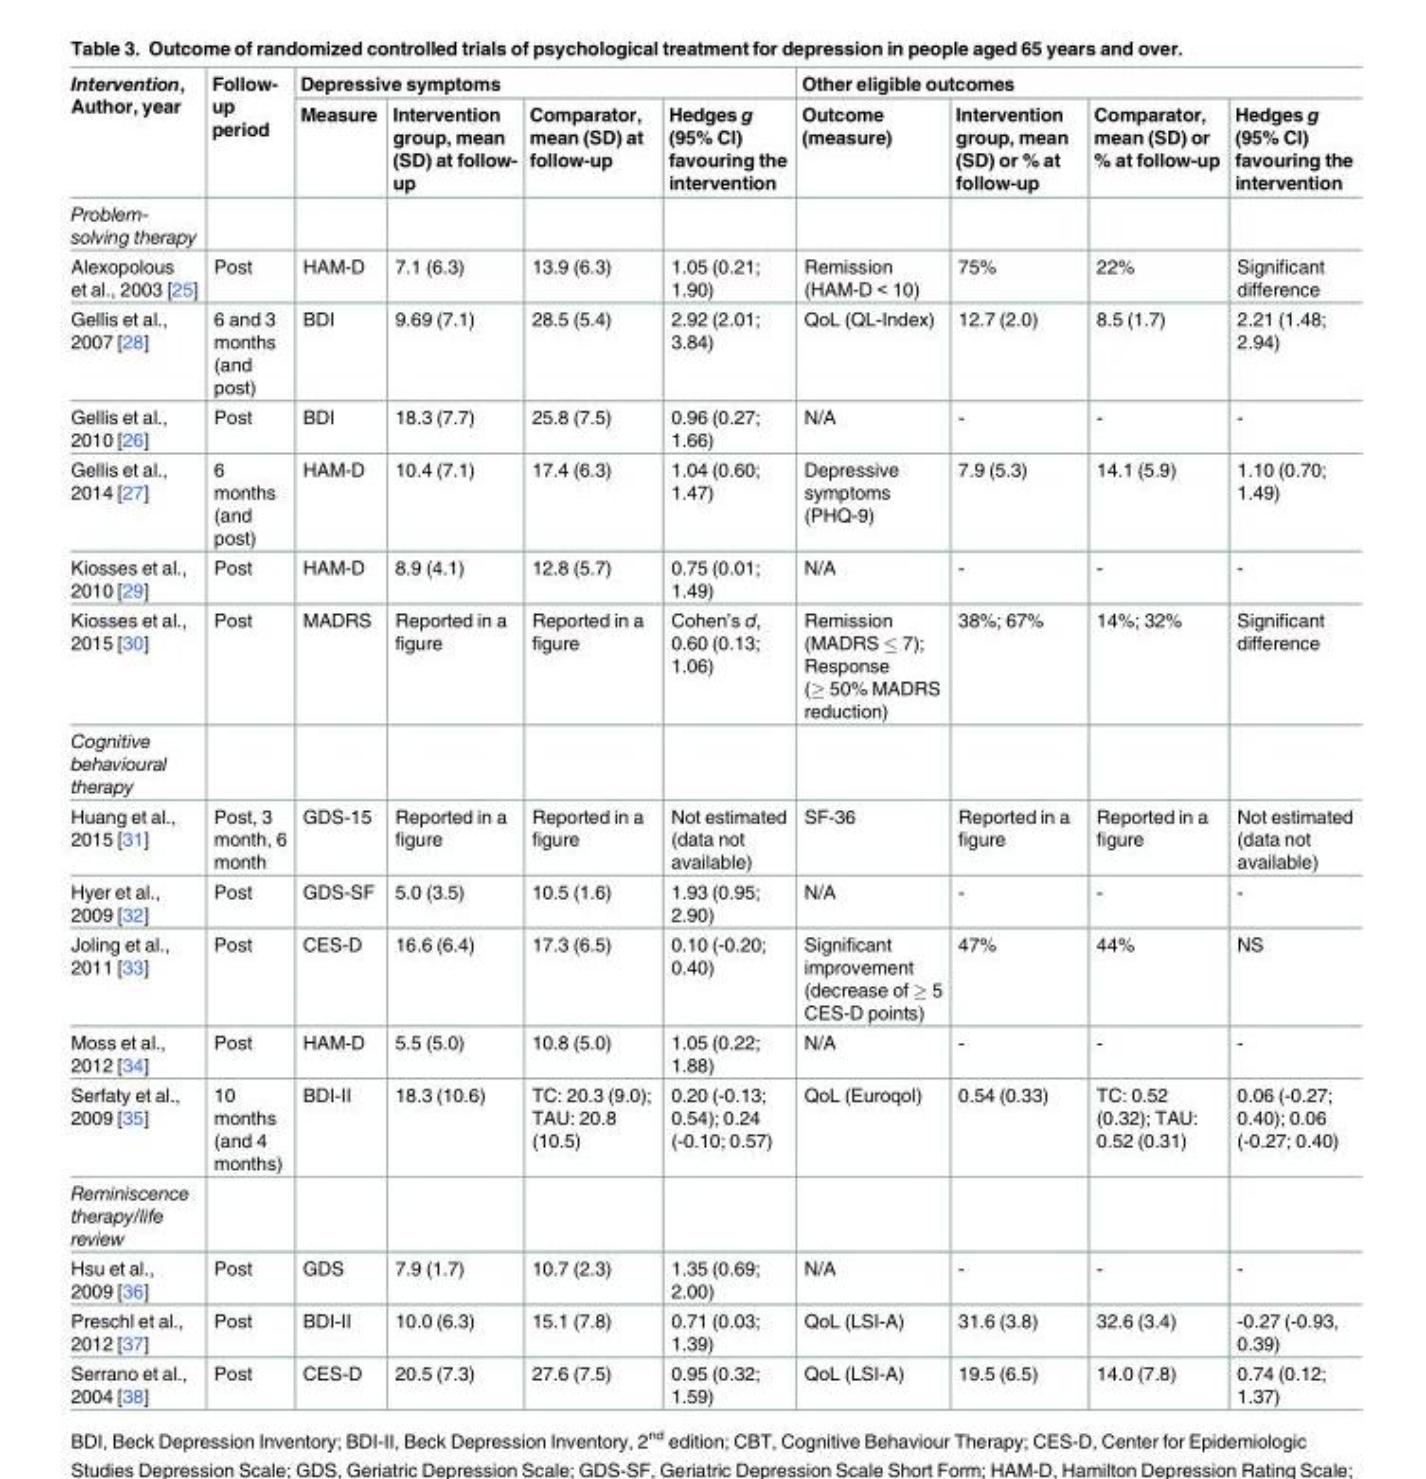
<table><thead><tr><td rowspan="2">Intervention, Author, year</td><td rowspan="2">Follow- up period</td><td colspan="4">Depressive symptoms</td><td colspan="4">Other eligible outcomes</td></tr><tr><td>Measure</td><td>Intervention group, mean (SD) at follow- up</td><td>Comparator, mean (SD) at follow-up</td><td>Hedges g (95% CI) favouring the intervention</td><td>Outcome (measure)</td><td>Intervention group, mean (SD) or % at follow-up</td><td>Comparator, mean (SD) or % at follow-up</td><td>Hedges g (95% CI) favouring the intervention</td></tr></thead><tbody><tr><td colspan="10">Problem- solving therapy</td></tr><tr><td>Alexopolous et al., 2003 [25]</td><td>Post</td><td>HAM-D</td><td>7.1 (6.3)</td><td>13.9 (6.3)</td><td>1.05 (0.21; 1.90)</td><td>Remission (HAM-D &lt; 10)</td><td>75%</td><td>22%</td><td>Significant difference</td></tr><tr><td>Gellis et al., 2007 [28]</td><td>6 and 3 months (and post)</td><td>BDI</td><td>9.69 (7.1)</td><td>28.5 (5.4)</td><td>2.92 (2.01; 3.84)</td><td>QoL (QL-Index)</td><td>12.7 (2.0)</td><td>8.5 (1.7)</td><td>2.21 (1.48; 2.94)</td></tr><tr><td>Gellis et al., 2010 [26]</td><td>Post</td><td>BDI</td><td>18.3 (7.7)</td><td>25.8 (7.5)</td><td>0.96 (0.27; 1.66)</td><td>N/A</td><td>-</td><td>-</td><td>-</td></tr><tr><td>Gellis et al., 2014 [27]</td><td>6 months (and post)</td><td>HAM-D</td><td>10.4 (7.1)</td><td>17.4 (6.3)</td><td>1.04 (0.60; 1.47)</td><td>Depressive symptoms (PHQ-9)</td><td>7.9 (5.3)</td><td>14.1 (5.9)</td><td>1.10 (0.70; 1.49)</td></tr><tr><td>Kiosses et al., 2010 [29]</td><td>Post</td><td>HAM-D</td><td>8.9 (4.1)</td><td>12.8 (5.7)</td><td>0.75 (0.01; 1.49)</td><td>N/A</td><td>-</td><td>-</td><td>-</td></tr><tr><td>Kiosses et al., 2015 [30]</td><td>Post</td><td>MADRS</td><td>Reported in a figure</td><td>Reported in a figure</td><td>Cohen’s d, 0.60 (0.13; 1.06)</td><td>Remission (MADRS ≤ 7); Response (≥ 50% MADRS reduction)</td><td>38%; 67%</td><td>14%; 32%</td><td>Significant difference</td></tr><tr><td colspan="10">Cognitive behavioural therapy</td></tr><tr><td>Huang et al., 2015 [31]</td><td>Post, 3 month, 6 month</td><td>GDS-15</td><td>Reported in a figure</td><td>Reported in a figure</td><td>Not estimated (data not available)</td><td>SF-36</td><td>Reported in a figure</td><td>Reported in a figure</td><td>Not estimated (data not available)</td></tr><tr><td>Hyer et al., 2009 [32]</td><td>Post</td><td>GDS-SF</td><td>5.0 (3.5)</td><td>10.5 (1.6)</td><td>1.93 (0.95; 2.90)</td><td>N/A</td><td>-</td><td>-</td><td>-</td></tr><tr><td>Joling et al., 2011 [33]</td><td>Post</td><td>CES-D</td><td>16.6 (6.4)</td><td>17.3 (6.5)</td><td>0.10 (-0.20; 0.40)</td><td>Significant improvement (decrease of ≥ 5 CES-D points)</td><td>47%</td><td>44%</td><td>NS</td></tr><tr><td>Moss et al., 2012 [34]</td><td>Post</td><td>HAM-D</td><td>5.5 (5.0)</td><td>10.8 (5.0)</td><td>1.05 (0.22; 1.88)</td><td>N/A</td><td>-</td><td>-</td><td>-</td></tr><tr><td>Serfaty et al., 2009 [35]</td><td>10 months (and 4 months)</td><td>BDI-II</td><td>18.3 (10.6)</td><td>TC: 20.3 (9.0); TAU: 20.8 (10.5)</td><td>0.20 (-0.13; 0.54); 0.24 (-0.10; 0.57)</td><td>QoL (Euroqol)</td><td>0.54 (0.33)</td><td>TC: 0.52 (0.32); TAU: 0.52 (0.31)</td><td>0.06 (-0.27; 0.40); 0.06 (-0.27; 0.40)</td></tr><tr><td colspan="10">Reminiscence therapy/life review</td></tr><tr><td>Hsu et al., 2009 [36]</td><td>Post</td><td>GDS</td><td>7.9 (1.7)</td><td>10.7 (2.3)</td><td>1.35 (0.69; 2.00)</td><td>N/A</td><td>-</td><td>-</td><td>-</td></tr><tr><td>Preschl et al., 2012 [37]</td><td>Post</td><td>BDI-II</td><td>10.0 (6.3)</td><td>15.1 (7.8)</td><td>0.71 (0.03; 1.39)</td><td>QoL (LSI-A)</td><td>31.6 (3.8)</td><td>32.6 (3.4)</td><td>-0.27 (-0.93, 0.39)</td></tr><tr><td>Serrano et al., 2004 [38]</td><td>Post</td><td>CES-D</td><td>20.5 (7.3)</td><td>27.6 (7.5)</td><td>0.95 (0.32; 1.59)</td><td>QoL (LSI-A)</td><td>19.5 (6.5)</td><td>14.0 (7.8)</td><td>0.74 (0.12; 1.37)</td></tr></tbody></table>